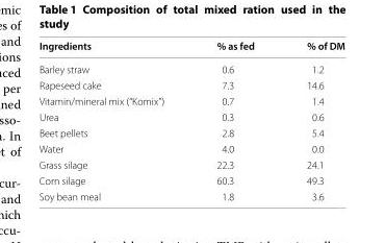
<table><thead><tr><td>Ingredients</td><td>% as fed</td><td>% of DM</td></tr></thead><tbody><tr><td>Barley straw</td><td>0.6</td><td>1.2</td></tr><tr><td>Rapeseed cake</td><td>7.3</td><td>14.6</td></tr><tr><td>Vitamin/mineral mix (“Komix”)</td><td>0.7</td><td>1.4</td></tr><tr><td>Urea</td><td>0.3</td><td>0.6</td></tr><tr><td>Beet pellets</td><td>2.8</td><td>5.4</td></tr><tr><td>Water</td><td>4.0</td><td>0.0</td></tr><tr><td>Grass silage</td><td>22.3</td><td>24.1</td></tr><tr><td>Corn silage</td><td>60.3</td><td>49.3</td></tr><tr><td>Soy bean meal</td><td>1.8</td><td>3.6</td></tr></tbody></table>